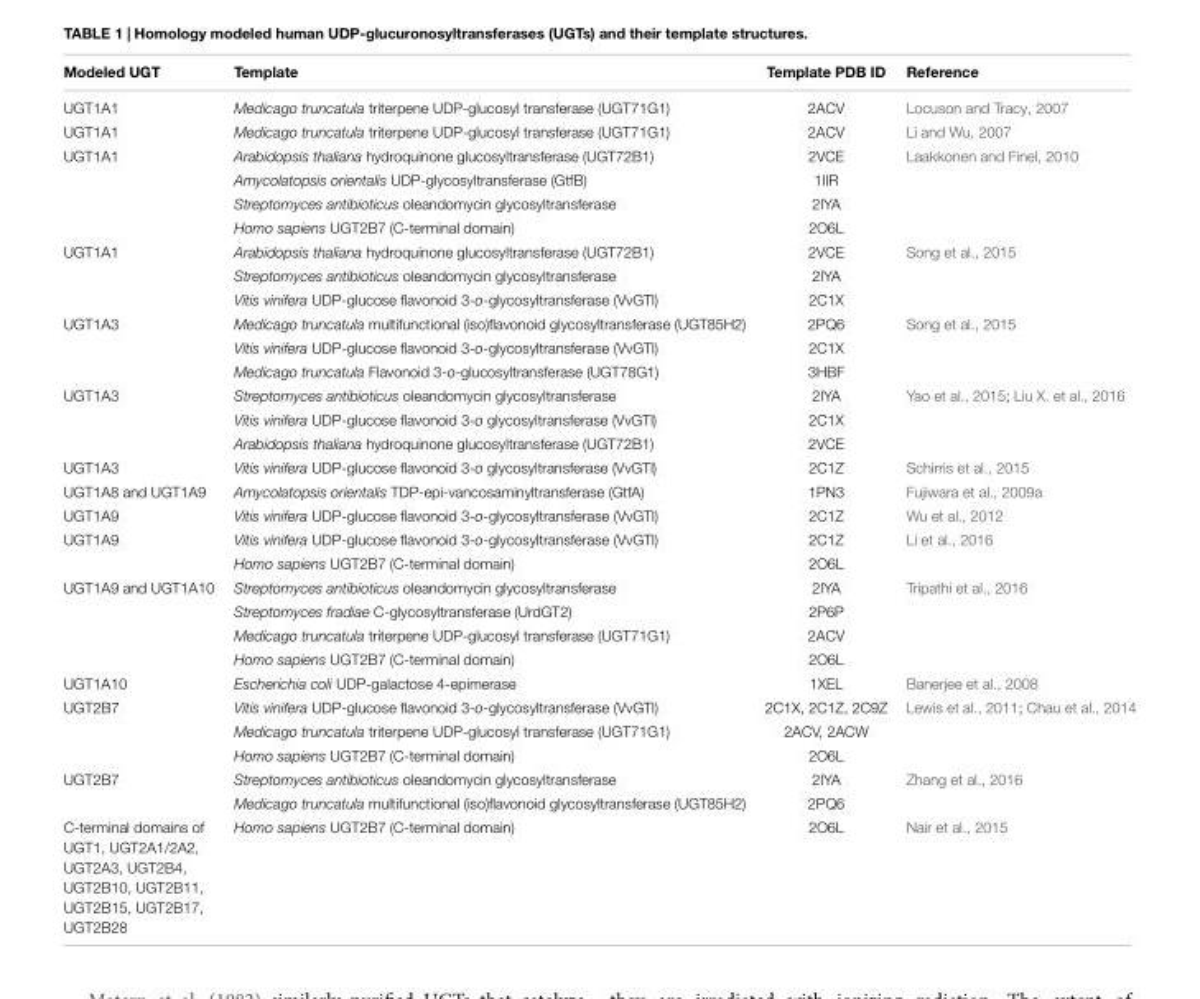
<table><thead><tr><td>Modeled UGT</td><td>Template</td><td>Template PDB ID</td><td>Reference</td></tr></thead><tbody><tr><td>UGT1A1</td><td>Medicago truncatula triterpene UDP-glucosyl transferase (UGT71G1)</td><td>2ACV</td><td>Locuson and Tracy, 2007</td></tr><tr><td>UGT1A1</td><td>Medicago truncatula triterpene UDP-glucosyl transferase (UGT71G1)</td><td>2ACV</td><td>Li and Wu, 2007</td></tr><tr><td rowspan="4">UGT1A1</td><td>Arabidopsis thaliana hydroquinone glucosyltransferase (UGT72B1)</td><td>2VCE</td><td>Laakkonen and Finel, 2010</td></tr><tr><td>Amycolatopsis orientalis UDP-glycosyltransferase (GtfB)</td><td>1IIR</td><td></td></tr><tr><td>Streptomyces antibioticus oleandomycin glycosyltransferase</td><td>2IYA</td><td></td></tr><tr><td>Homo sapiens UGT2B7 (C-terminal domain)</td><td>2O6L</td><td></td></tr><tr><td rowspan="3">UGT1A1</td><td>Arabidopsis thaliana hydroquinone glucosyltransferase (UGT72B1)</td><td>2VCE</td><td>Song et al., 2015</td></tr><tr><td>Streptomyces antibioticus oleandomycin glycosyltransferase</td><td>2IYA</td><td></td></tr><tr><td>Vitis vinifera UDP-glucose flavonoid 3-o-glycosyltransferase (VvGTl)</td><td>2C1X</td><td></td></tr><tr><td rowspan="3">UGT1A3</td><td>Medicago truncatula multifunctional (iso)flavonoid glycosyltransferase (UGT85H2)</td><td>2PQ6</td><td>Song et al., 2015</td></tr><tr><td>Vitis vinifera UDP-glucose flavonoid 3-o-glycosyltransferase (VvGTl)</td><td>2C1X</td><td></td></tr><tr><td>Medicago truncatula Flavonoid 3-o-glucosyltransferase (UGT78G1)</td><td>3HBF</td><td></td></tr><tr><td rowspan="3">UGT1A3</td><td>Streptomyces antibioticus oleandomycin glycosyltransferase</td><td>2IYA</td><td>Yao et al., 2015; Liu X. et al., 2016</td></tr><tr><td>Vitis vinifera UDP-glucose flavonoid 3-o glycosyltransferase (VvGTl)</td><td>2C1X</td><td></td></tr><tr><td>Arabidopsis thaliana hydroquinone glucosyltransferase (UGT72B1)</td><td>2VCE</td><td></td></tr><tr><td>UGT1A3</td><td>Vitis vinifera UDP-glucose flavonoid 3-o glycosyltransferase (VvGTl)</td><td>2C1Z</td><td>Schirris et al., 2015</td></tr><tr><td>UGT1A8 and UGT1A9</td><td>Amycolatopsis orientalis TDP-epi-vancosaminyltransferase (GtfA)</td><td>1PN3</td><td>Fujiwara et al., 2009a</td></tr><tr><td>UGT1A9</td><td>Vitis vinifera UDP-glucose flavonoid 3-o-glycosyltransferase (VvGTl)</td><td>2C1Z</td><td>Wu et al., 2012</td></tr><tr><td rowspan="2">UGT1A9</td><td>Vitis vinifera UDP-glucose flavonoid 3-o-glycosyltransferase (VvGTl)</td><td>2C1Z</td><td>Li et al., 2016</td></tr><tr><td>Homo sapiens UGT2B7 (C-terminal domain)</td><td>2O6L</td><td></td></tr><tr><td rowspan="4">UGT1A9 and UGT1A10</td><td>Streptomyces antibioticus oleandomycin glycosyltransferase</td><td>2IYA</td><td>Tripathi et al., 2016</td></tr><tr><td>Streptomyces fradiae C-glycosyltransferase (UrdGT2)</td><td>2P6P</td><td></td></tr><tr><td>Medicago truncatula triterpene UDP-glucosyl transferase (UGT71G1)</td><td>2ACV</td><td></td></tr><tr><td>Homo sapiens UGT2B7 (C-terminal domain)</td><td>2O6L</td><td></td></tr><tr><td>UGT1A10</td><td>Escherichia coli UDP-galactose 4-epimerase</td><td>1XEL</td><td>Banerjee et al., 2008</td></tr><tr><td rowspan="3">UGT2B7</td><td>Vitis vinifera UDP-glucose flavonoid 3-o-glycosyltransferase (VvGTl)</td><td>2C1X, 2C1Z, 2C9Z</td><td>Lewis et al., 2011; Chau et al., 2014</td></tr><tr><td>Medicago truncatula triterpene UDP-glucosyl transferase (UGT71G1)</td><td>2ACV, 2ACW</td><td></td></tr><tr><td>Homo sapiens UGT2B7 (C-terminal domain)</td><td>2O6L</td><td></td></tr><tr><td rowspan="2">UGT2B7</td><td>Streptomyces antibioticus oleandomycin glycosyltransferase</td><td>2IYA</td><td>Zhang et al., 2016</td></tr><tr><td>Medicago truncatula multifunctional (iso)flavonoid glycosyltransferase (UGT85H2)</td><td>2PQ6</td><td></td></tr><tr><td>C-terminal domains of UGT1, UGT2A1/2A2, UGT2A3, UGT2B4, UGT2B10, UGT2B11, UGT2B15, UGT2B17, UGT2B28</td><td>Homo sapiens UGT2B7 (C-terminal domain)</td><td>2O6L</td><td>Nair et al., 2015</td></tr></tbody></table>